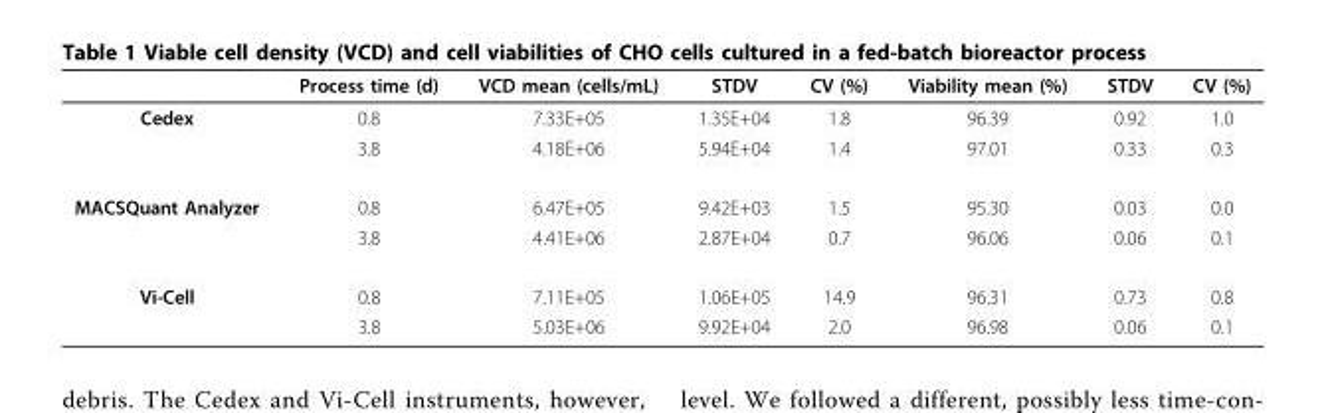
<table><thead><tr><td></td><td>Process time (d)</td><td>VCD mean (cells/mL)</td><td>STDV</td><td>CV (%)</td><td>Viability mean (%)</td><td>STDV</td><td>CV (%)</td></tr></thead><tbody><tr><td rowspan="2">Cedex</td><td>0.8</td><td>7.33E+05</td><td>1.35E+04</td><td>1.8</td><td>96.39</td><td>0.92</td><td>1.0</td></tr><tr><td>3.8</td><td>4.18E+06</td><td>5.94E+04</td><td>1.4</td><td>97.01</td><td>0.33</td><td>0.3</td></tr><tr><td rowspan="2">MACSQuant Analyzer</td><td>0.8</td><td>6.47E+05</td><td>9.42E+03</td><td>1.5</td><td>95.30</td><td>0.03</td><td>0.0</td></tr><tr><td>3.8</td><td>4.41E+06</td><td>2.87E+04</td><td>0.7</td><td>96.06</td><td>0.06</td><td>0.1</td></tr><tr><td rowspan="2">Vi-Cell</td><td>0.8</td><td>7.11E+05</td><td>1.06E+05</td><td>14.9</td><td>96.31</td><td>0.73</td><td>0.8</td></tr><tr><td>3.8</td><td>5.03E+06</td><td>9.92E+04</td><td>2.0</td><td>96.98</td><td>0.06</td><td>0.1</td></tr></tbody></table>